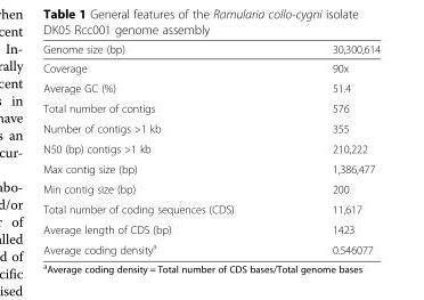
<table><thead><tr><td>Genome size (bp)</td><td>30,300,614</td></tr></thead><tbody><tr><td>Coverage</td><td>90x</td></tr><tr><td>Average GC (%)</td><td>51.4</td></tr><tr><td>Total number of contigs</td><td>576</td></tr><tr><td>Number of contigs &gt;1 kb</td><td>355</td></tr><tr><td>N50 (bp) contigs &gt;1 kb</td><td>210,222</td></tr><tr><td>Max contig size (bp)</td><td>1,386,477</td></tr><tr><td>Min contig size (bp)</td><td>200</td></tr><tr><td>Total number of coding sequences (CDS)</td><td>11,617</td></tr><tr><td>Average length of CDS (bp)</td><td>1423</td></tr><tr><td>Average coding density<sup>a</sup></td><td>0.546077</td></tr></tbody></table>